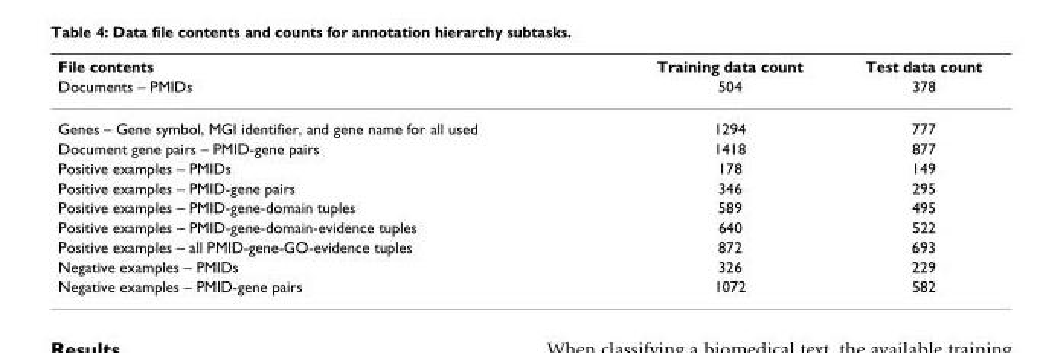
<table><thead><tr><td rowspan="2">File contents Documents – PMIDs</td><td rowspan="2">Training data count 504</td><td rowspan="2">Test data count 378</td></tr><tr></tr></thead><tbody><tr><td>Genes – Gene symbol, MGI identifier, and gene name for all used</td><td>1294</td><td>777</td></tr><tr><td>Document gene pairs – PMID-gene pairs</td><td>1418</td><td>877</td></tr><tr><td>Positive examples – PMIDs</td><td>178</td><td>149</td></tr><tr><td>Positive examples – PMID-gene pairs</td><td>346</td><td>295</td></tr><tr><td>Positive examples – PMID-gene-domain tuples</td><td>589</td><td>495</td></tr><tr><td>Positive examples – PMID-gene-domain-evidence tuples</td><td>640</td><td>522</td></tr><tr><td>Positive examples – all PMID-gene-GO-evidence tuples</td><td>872</td><td>693</td></tr><tr><td>Negative examples – PMIDs</td><td>326</td><td>229</td></tr><tr><td>Negative examples – PMID-gene pairs</td><td>1072</td><td>582</td></tr></tbody></table>